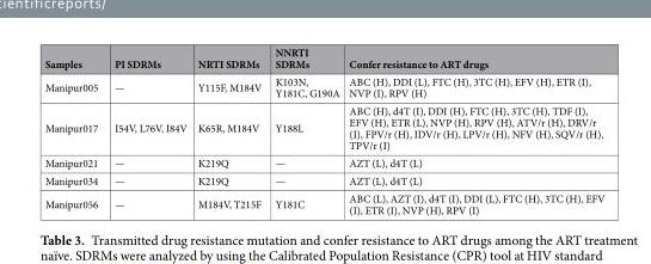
<table><thead><tr><td>Samples</td><td>PI SDRMs</td><td>NRTI SDRMs</td><td>NNRTI SDRMs</td><td>Confer resistance to ART drugs</td></tr></thead><tbody><tr><td>Manipur005</td><td>—</td><td>Y115F, M184V</td><td>K103N, Y181C, G190A</td><td>ABC (H), DDI (L), FTC (H), 3TC (H), EFV (H), ETR (I), NVP (I), RPV (H)</td></tr><tr><td>Manipur017</td><td>I54V, L76V, I84V</td><td>K65R, M184V</td><td>Y188L</td><td>ABC (H), d4T (I), DDI (H), FTC (H), 3TC (H), TDF (I), EFV (H), ETR (L), NVP (H), RPV (H), ATV/r (H), DRV/r (I), FPV/r (H), IDV/r (H), LPV/r (H), NFV (H), SQV/r (H), TPV/r (I)</td></tr><tr><td>Manipur021</td><td>—</td><td>K219Q</td><td>—</td><td>AZT (L), d4T (L)</td></tr><tr><td>Manipur034</td><td>—</td><td>K219Q</td><td>—</td><td>AZT (L), d4T (L)</td></tr><tr><td>Manipur056</td><td>—</td><td>M184V, T215F</td><td>Y181C</td><td>ABC (L), AZT (I), d4T (I), DDI (L), FTC (H), 3TC (H), EFV (I), ETR (I), NVP (H), RPV (I)</td></tr></tbody></table>